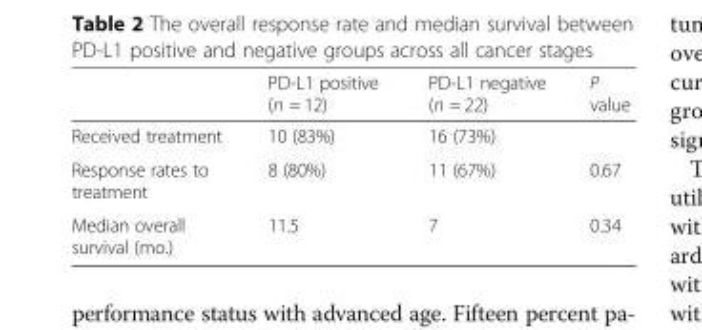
<table><thead><tr><td></td><td>PD-L1 positive (n = 12)</td><td>PD-L1 negative (n = 22)</td><td>P value</td></tr></thead><tbody><tr><td>Received treatment</td><td>10 (83%)</td><td>16 (73%)</td><td></td></tr><tr><td>Response rates to treatment</td><td>8 (80%)</td><td>11 (67%)</td><td>0.67</td></tr><tr><td>Median overall survival (mo.)</td><td>11.5</td><td>7</td><td>0.34</td></tr></tbody></table>